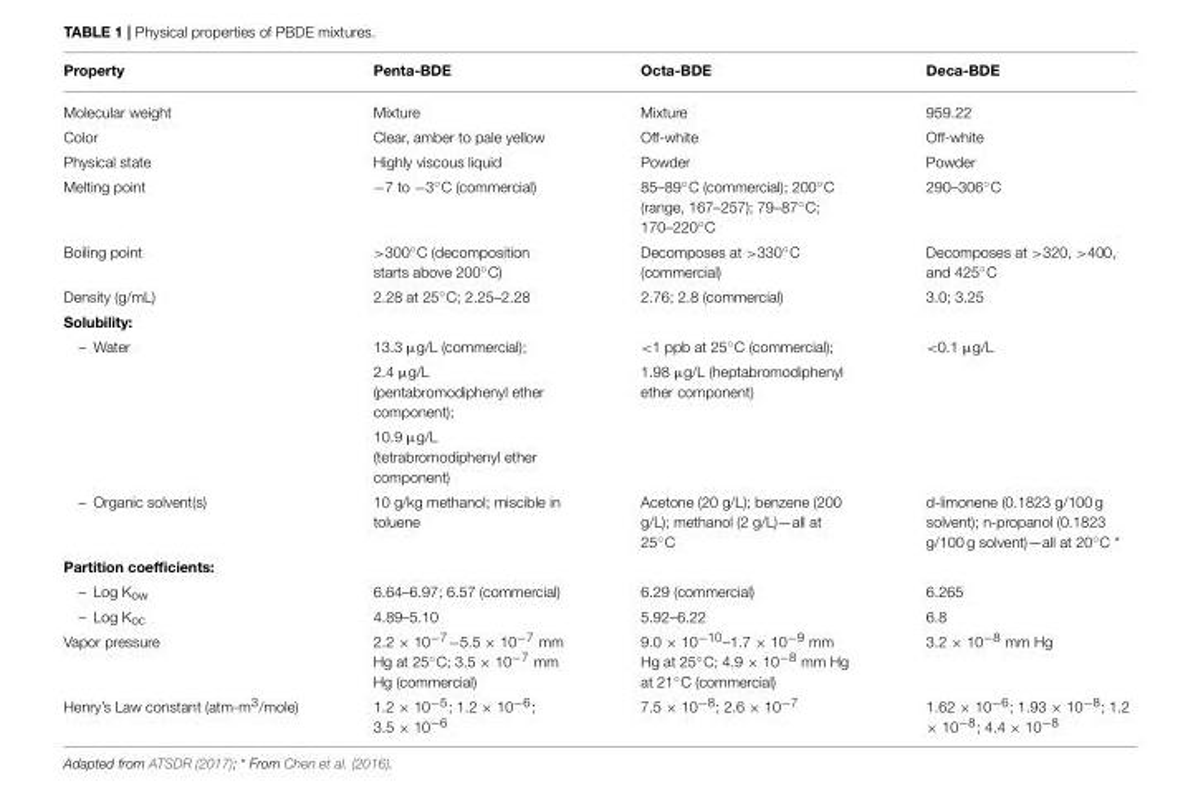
<table><thead><tr><td>Property</td><td>Penta-BDE</td><td>Octa-BDE</td><td>Deca-BDE</td></tr></thead><tbody><tr><td>Molecular weight</td><td>Mixture</td><td>Mixture</td><td>959.22</td></tr><tr><td>Color</td><td>Clear, amber to pale yellow</td><td>Off-white</td><td>Off-white</td></tr><tr><td>Physical state</td><td>Highly viscous liquid</td><td>Powder</td><td>Powder</td></tr><tr><td>Melting point</td><td>−7 to −3◦C (commercial)</td><td>85–89◦C (commercial); 200◦C (range, 167–257); 79–87◦C; 170–220◦C</td><td>290–306◦C</td></tr><tr><td>Boiling point</td><td>&gt;300◦C (decomposition starts above 200◦C)</td><td>Decomposes at &gt;330◦C (commercial)</td><td>Decomposes at &gt;320, &gt;400, and 425◦C</td></tr><tr><td>Density (g/mL)</td><td>2.28 at 25◦C; 2.25–2.28</td><td>2.76; 2.8 (commercial)</td><td>3.0; 3.25</td></tr><tr><td colspan="4">Solubility:</td></tr><tr><td rowspan="3">– Water</td><td>13.3 µg/L (commercial);</td><td>&lt;1 ppb at 25◦C (commercial);</td><td>&lt;0.1 µg/L</td></tr><tr><td>2.4 µg/L (pentabromodiphenyl ether component);</td><td>1.98 µg/L (heptabromodiphenyl ether component)</td><td></td></tr><tr><td>10.9 µg/L (tetrabromodiphenyl ether component)</td><td></td><td></td></tr><tr><td>– Organic solvent(s)</td><td>10 g/kg methanol; miscible in toluene</td><td>Acetone (20 g/L); benzene (200 g/L); methanol (2 g/L)—all at 25◦C</td><td>d-limonene (0.1823 g/100 g solvent); n-propanol (0.1823 g/100 g solvent)—all at 20◦C *</td></tr><tr><td colspan="4">Partition coefficients:</td></tr><tr><td>– Log K<sub>ow</sub></td><td>6.64–6.97; 6.57 (commercial)</td><td>6.29 (commercial)</td><td>6.265</td></tr><tr><td>– Log K<sub>oc</sub></td><td>4.89–5.10</td><td>5.92–6.22</td><td>6.8</td></tr><tr><td>Vapor pressure</td><td>2.2 × 10−7−5.5 × 10−7 mm Hg at 25◦C; 3.5 × 10−7 mm Hg (commercial)</td><td>9.0 × 10−10–1.7 × 10−9 mm Hg at 25◦C; 4.9 × 10−8 mm Hg at 21◦C (commercial)</td><td>3.2 × 10<sup>−8</sup> mm Hg</td></tr><tr><td>Henry’s Law constant (atm-m<sup>3</sup>/mole)</td><td>1.2 × 10<sup>−5</sup>; 1.2 × 10<sup>−6</sup>; 3.5 × 10<sup>−6</sup></td><td>7.5 × 10<sup>−8</sup>; 2.6 × 10<sup>−7</sup></td><td>1.62 × 10<sup>−6</sup>; 1.93 × 10<sup>−8</sup>; 1.2 × 10<sup>−8</sup>; 4.4 × 10<sup>−8</sup></td></tr></tbody></table>